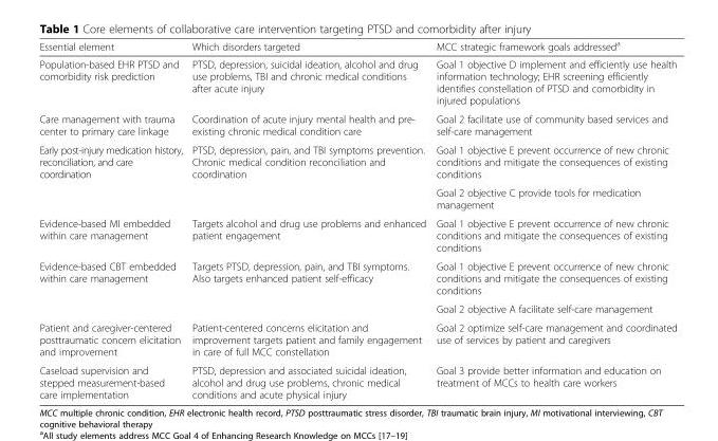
<table><thead><tr><td>Essential element</td><td>Which disorders targeted</td><td>MCC strategic framework goals addressed<sup>a</sup></td></tr></thead><tbody><tr><td>Population-based EHR PTSD and comorbidity risk prediction</td><td>PTSD, depression, suicidal ideation, alcohol and drug use problems, TBI and chronic medical conditions after acute injury</td><td>Goal 1 objective D implement and efficiently use health information technology; EHR screening efficiently identifies constellation of PTSD and comorbidity in injured populations</td></tr><tr><td>Care management with trauma center to primary care linkage</td><td>Coordination of acute injury mental health and pre- existing chronic medical condition care</td><td>Goal 2 facilitate use of community based services and self-care management</td></tr><tr><td rowspan="2">Early post-injury medication history, reconciliation, and care coordination</td><td rowspan="2">PTSD, depression, pain, and TBI symptoms prevention. Chronic medical condition reconciliation and coordination</td><td>Goal 1 objective E prevent occurrence of new chronic conditions and mitigate the consequences of existing conditions</td></tr><tr><td>Goal 2 objective C provide tools for medication management</td></tr><tr><td>Evidence-based MI embedded within care management</td><td>Targets alcohol and drug use problems and enhanced patient engagement</td><td>Goal 1 objective E prevent occurrence of new chronic conditions and mitigate the consequences of existing conditions</td></tr><tr><td rowspan="2">Evidence-based CBT embedded within care management</td><td rowspan="2">Targets PTSD, depression, pain, and TBI symptoms. Also targets enhanced patient self-efficacy</td><td>Goal 1 objective E prevent occurrence of new chronic conditions and mitigate the consequences of existing conditions</td></tr><tr><td>Goal 2 objective A facilitate self-care management</td></tr><tr><td>Patient and caregiver-centered posttraumatic concern elicitation and improvement</td><td>Patient-centered concerns elicitation and improvement targets patient and family engagement in care of full MCC constellation</td><td>Goal 2 optimize self-care management and coordinated use of services by patient and caregivers</td></tr><tr><td>Caseload supervision and stepped measurement-based care implementation</td><td>PTSD, depression and associated suicidal ideation, alcohol and drug use problems, chronic medical conditions and acute physical injury</td><td>Goal 3 provide better information and education on treatment of MCCs to health care workers</td></tr></tbody></table>